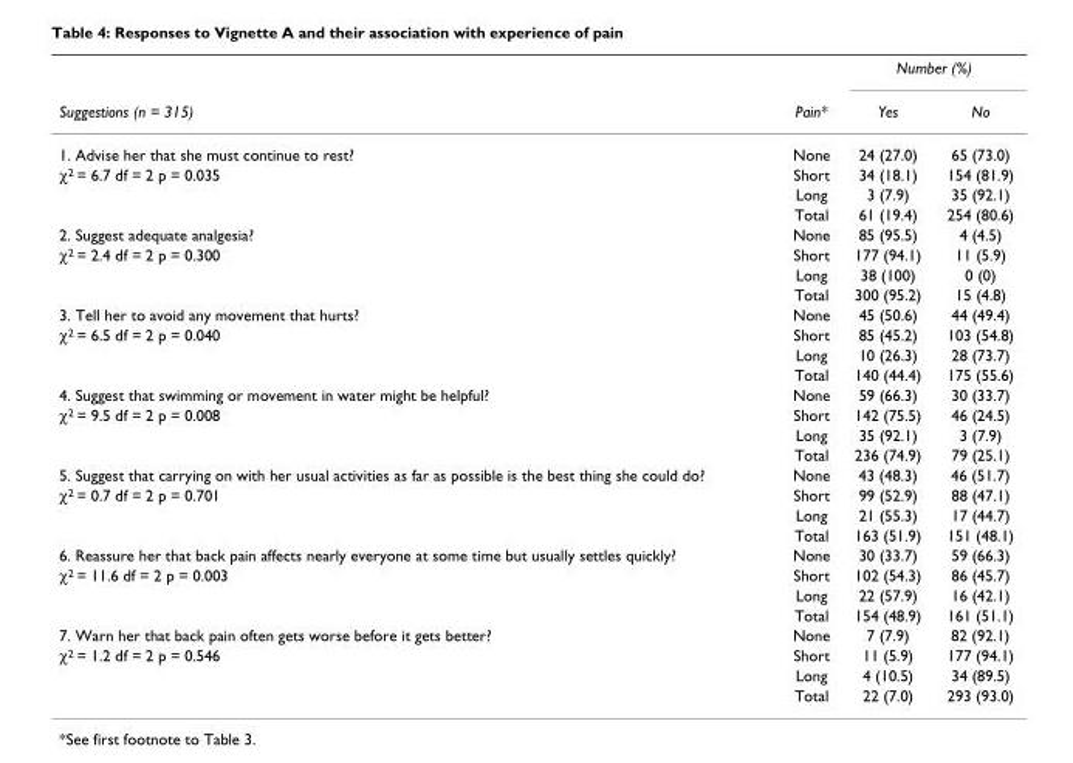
<table><thead><tr><td rowspan="2">Suggestions (n = 315)</td><td rowspan="2">Pain*</td><td colspan="2">Number (%)</td></tr><tr><td>Yes</td><td>No</td></tr></thead><tbody><tr><td>1. Advise her that she must continue to rest?</td><td>None</td><td>24 (27.0)</td><td>65 (73.0)</td></tr><tr><td rowspan="3">χ2 = 6.7 df = 2 p = 0.035</td><td>Short</td><td>34 (18.1)</td><td>154 (81.9)</td></tr><tr><td>Long</td><td>3 (7.9)</td><td>35 (92.1)</td></tr><tr><td>Total</td><td>61 (19.4)</td><td>254 (80.6)</td></tr><tr><td>2. Suggest adequate analgesia?</td><td>None</td><td>85 (95.5)</td><td>4 (4.5)</td></tr><tr><td rowspan="3">χ2 = 2.4 df = 2 p = 0.300</td><td>Short</td><td>177 (94.1)</td><td>11 (5.9)</td></tr><tr><td>Long</td><td>38 (100)</td><td>0 (0)</td></tr><tr><td>Total</td><td>300 (95.2)</td><td>15 (4.8)</td></tr><tr><td>3. Tell her to avoid any movement that hurts?</td><td>None</td><td>45 (50.6)</td><td>44 (49.4)</td></tr><tr><td rowspan="3">χ2 = 6.5 df = 2 p = 0.040</td><td>Short</td><td>85 (45.2)</td><td>103 (54.8)</td></tr><tr><td>Long</td><td>10 (26.3)</td><td>28 (73.7)</td></tr><tr><td>Total</td><td>140 (44.4)</td><td>175 (55.6)</td></tr><tr><td>4. Suggest that swimming or movement in water might be helpful?</td><td>None</td><td>59 (66.3)</td><td>30 (33.7)</td></tr><tr><td rowspan="3">χ2 = 9.5 df = 2 p = 0.008</td><td>Short</td><td>142 (75.5)</td><td>46 (24.5)</td></tr><tr><td>Long</td><td>35 (92.1)</td><td>3 (7.9)</td></tr><tr><td>Total</td><td>236 (74.9)</td><td>79 (25.1)</td></tr><tr><td>5. Suggest that carrying on with her usual activities as far as possible is the best thing she could do?</td><td>None</td><td>43 (48.3)</td><td>46 (51.7)</td></tr><tr><td rowspan="3">χ2 = 0.7 df = 2 p = 0.701</td><td>Short</td><td>99 (52.9)</td><td>88 (47.1)</td></tr><tr><td>Long</td><td>21 (55.3)</td><td>17 (44.7)</td></tr><tr><td>Total</td><td>163 (51.9)</td><td>151 (48.1)</td></tr><tr><td>6. Reassure her that back pain affects nearly everyone at some time but usually settles quickly?</td><td>None</td><td>30 (33.7)</td><td>59 (66.3)</td></tr><tr><td rowspan="3">χ2 = 11.6 df = 2 p = 0.003</td><td>Short</td><td>102 (54.3)</td><td>86 (45.7)</td></tr><tr><td>Long</td><td>22 (57.9)</td><td>16 (42.1)</td></tr><tr><td>Total</td><td>154 (48.9)</td><td>161 (51.1)</td></tr><tr><td>7. Warn her that back pain often gets worse before it gets better?</td><td>None</td><td>7 (7.9)</td><td>82 (92.1)</td></tr><tr><td rowspan="3">χ2 = 1.2 df = 2 p = 0.546</td><td>Short</td><td>11 (5.9)</td><td>177 (94.1)</td></tr><tr><td>Long</td><td>4 (10.5)</td><td>34 (89.5)</td></tr><tr><td>Total</td><td>22 (7.0)</td><td>293 (93.0)</td></tr></tbody></table>